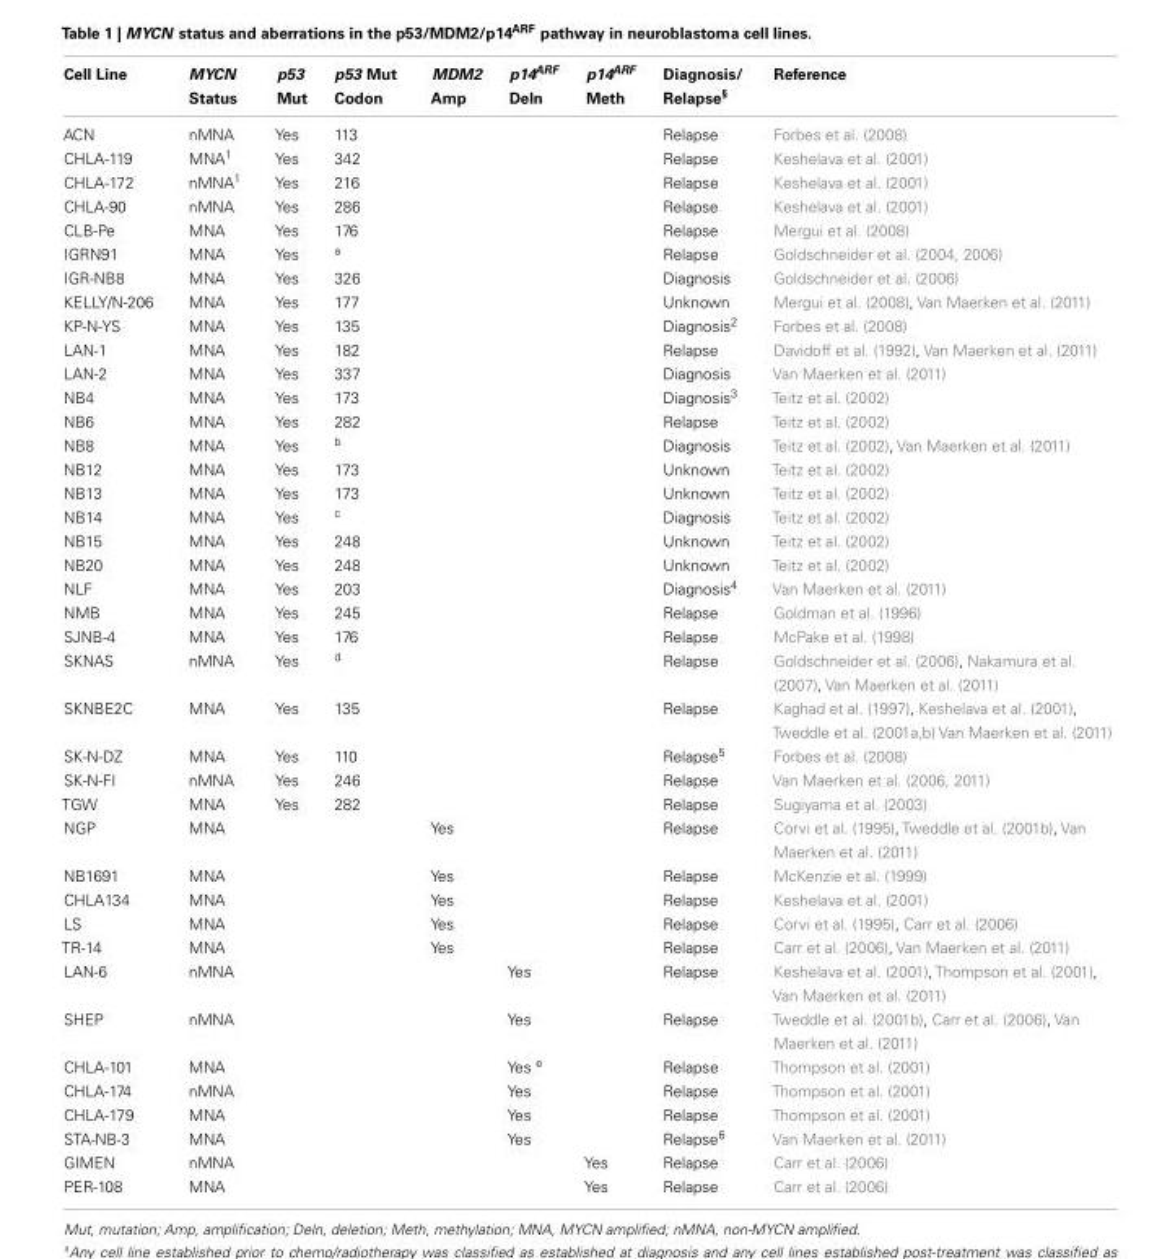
<table><thead><tr><td>Cell Line</td><td>MYCN Status</td><td>p53 Mut</td><td>p53 Mut Codon</td><td>MDM2 Amp</td><td>p14<sup>ARF</sup> Deln</td><td>p14<sup>ARF</sup> Meth</td><td>Diagnosis/ Relapse<sup>§</sup></td><td>Reference</td></tr></thead><tbody><tr><td>ACN</td><td>nMNA</td><td>Yes</td><td>113</td><td></td><td></td><td></td><td>Relapse</td><td>Forbes et al. (2008)</td></tr><tr><td>CHLA-119</td><td>MNA<sup>1</sup></td><td>Yes</td><td>342</td><td></td><td></td><td></td><td>Relapse</td><td>Keshelava et al. (2001)</td></tr><tr><td>CHLA-172</td><td>nMNA<sup>1</sup></td><td>Yes</td><td>216</td><td></td><td></td><td></td><td>Relapse</td><td>Keshelava et al. (2001)</td></tr><tr><td>CHLA-90</td><td>nMNA</td><td>Yes</td><td>286</td><td></td><td></td><td></td><td>Relapse</td><td>Keshelava et al. (2001)</td></tr><tr><td>CLB-Pe</td><td>MNA</td><td>Yes</td><td>176</td><td></td><td></td><td></td><td>Relapse</td><td>Mergui et al. (2008)</td></tr><tr><td>IGRN91</td><td>MNA</td><td>Yes</td><td><sup>a</sup></td><td></td><td></td><td></td><td>Relapse</td><td>Goldschneider et al. (2004, 2006)</td></tr><tr><td>IGR-NB8</td><td>MNA</td><td>Yes</td><td>326</td><td></td><td></td><td></td><td>Diagnosis</td><td>Goldschneider et al. (2006)</td></tr><tr><td>KELLY/N-206</td><td>MNA</td><td>Yes</td><td>177</td><td></td><td></td><td></td><td>Unknown</td><td>Mergui et al. (2008), Van Maerken et al. (2011)</td></tr><tr><td>KP-N-YS</td><td>MNA</td><td>Yes</td><td>135</td><td></td><td></td><td></td><td>Diagnosis<sup>2</sup></td><td>Forbes et al. (2008)</td></tr><tr><td>LAN-1</td><td>MNA</td><td>Yes</td><td>182</td><td></td><td></td><td></td><td>Relapse</td><td>Davidoff et al. (1992), Van Maerken et al. (2011)</td></tr><tr><td>LAN-2</td><td>MNA</td><td>Yes</td><td>337</td><td></td><td></td><td></td><td>Diagnosis</td><td>Van Maerken et al. (2011)</td></tr><tr><td>NB4</td><td>MNA</td><td>Yes</td><td>173</td><td></td><td></td><td></td><td>Diagnosis<sup>3</sup></td><td>Teitz et al. (2002)</td></tr><tr><td>NB6</td><td>MNA</td><td>Yes</td><td>282</td><td></td><td></td><td></td><td>Relapse</td><td>Teitz et al. (2002)</td></tr><tr><td>NB8</td><td>MNA</td><td>Yes</td><td><sup>b</sup></td><td></td><td></td><td></td><td>Diagnosis</td><td>Teitz et al. (2002), Van Maerken et al. (2011)</td></tr><tr><td>NB12</td><td>MNA</td><td>Yes</td><td>173</td><td></td><td></td><td></td><td>Unknown</td><td>Teitz et al. (2002)</td></tr><tr><td>NB13</td><td>MNA</td><td>Yes</td><td>173</td><td></td><td></td><td></td><td>Unknown</td><td>Teitz et al. (2002)</td></tr><tr><td>NB14</td><td>MNA</td><td>Yes</td><td><sup>c</sup></td><td></td><td></td><td></td><td>Diagnosis</td><td>Teitz et al. (2002)</td></tr><tr><td>NB15</td><td>MNA</td><td>Yes</td><td>248</td><td></td><td></td><td></td><td>Unknown</td><td>Teitz et al. (2002)</td></tr><tr><td>NB20</td><td>MNA</td><td>Yes</td><td>248</td><td></td><td></td><td></td><td>Unknown</td><td>Teitz et al. (2002)</td></tr><tr><td>NLF</td><td>MNA</td><td>Yes</td><td>203</td><td></td><td></td><td></td><td>Diagnosis<sup>4</sup></td><td>Van Maerken et al. (2011)</td></tr><tr><td>NMB</td><td>MNA</td><td>Yes</td><td>245</td><td></td><td></td><td></td><td>Relapse</td><td>Goldman et al. (1996)</td></tr><tr><td>SJNB-4</td><td>MNA</td><td>Yes</td><td>176</td><td></td><td></td><td></td><td>Relapse</td><td>McPake et al. (1998)</td></tr><tr><td>SKNAS</td><td>nMNA</td><td>Yes</td><td><sup>d</sup></td><td></td><td></td><td></td><td>Relapse</td><td>Goldschneider et al. (2006), Nakamura et al. (2007), Van Maerken et al. (2011)</td></tr><tr><td>SKNBE2C</td><td>MNA</td><td>Yes</td><td>135</td><td></td><td></td><td></td><td>Relapse</td><td>Kaghad et al. (1997), Keshelava et al. (2001), Tweddle et al. (2001a,b) Van Maerken et al. (2011)</td></tr><tr><td>SK-N-DZ</td><td>MNA</td><td>Yes</td><td>110</td><td></td><td></td><td></td><td>Relapse<sup>5</sup></td><td>Forbes et al. (2008)</td></tr><tr><td>SK-N-FI</td><td>nMNA</td><td>Yes</td><td>246</td><td></td><td></td><td></td><td>Relapse</td><td>Van Maerken et al. (2006, 2011)</td></tr><tr><td>TGW</td><td>MNA</td><td>Yes</td><td>282</td><td></td><td></td><td></td><td>Relapse</td><td>Sugiyama et al. (2003)</td></tr><tr><td>NGP</td><td>MNA</td><td></td><td></td><td>Yes</td><td></td><td></td><td>Relapse</td><td>Corvi et al. (1995), Tweddle et al. (2001b), Van Maerken et al. (2011)</td></tr><tr><td>NB1691</td><td>MNA</td><td></td><td></td><td>Yes</td><td></td><td></td><td>Relapse</td><td>McKenzie et al. (1999)</td></tr><tr><td>CHLA134</td><td>MNA</td><td></td><td></td><td>Yes</td><td></td><td></td><td>Relapse</td><td>Keshelava et al. (2001)</td></tr><tr><td>LS</td><td>MNA</td><td></td><td></td><td>Yes</td><td></td><td></td><td>Relapse</td><td>Corvi et al. (1995), Carr et al. (2006)</td></tr><tr><td>TR-14</td><td>MNA</td><td></td><td></td><td>Yes</td><td></td><td></td><td>Relapse</td><td>Carr et al. (2006), Van Maerken et al. (2011)</td></tr><tr><td>LAN-6</td><td>nMNA</td><td></td><td></td><td></td><td>Yes</td><td></td><td>Relapse</td><td>Keshelava et al. (2001), Thompson et al. (2001), Van Maerken et al. (2011)</td></tr><tr><td>SHEP</td><td>nMNA</td><td></td><td></td><td></td><td>Yes</td><td></td><td>Relapse</td><td>Tweddle et al. (2001b), Carr et al. (2006), Van Maerken et al. (2011)</td></tr><tr><td>CHLA-101</td><td>MNA</td><td></td><td></td><td></td><td>Yes <sup>e</sup></td><td></td><td>Relapse</td><td>Thompson et al. (2001)</td></tr><tr><td>CHLA-174</td><td>nMNA</td><td></td><td></td><td></td><td>Yes</td><td></td><td>Relapse</td><td>Thompson et al. (2001)</td></tr><tr><td>CHLA-179</td><td>MNA</td><td></td><td></td><td></td><td>Yes</td><td></td><td>Relapse</td><td>Thompson et al. (2001)</td></tr><tr><td>STA-NB-3</td><td>MNA</td><td></td><td></td><td></td><td>Yes</td><td></td><td>Relapse<sup>6</sup></td><td>Van Maerken et al. (2011)</td></tr><tr><td>GIMEN</td><td>nMNA</td><td></td><td></td><td></td><td></td><td>Yes</td><td>Relapse</td><td>Carr et al. (2006)</td></tr><tr><td>PER-108</td><td>MNA</td><td></td><td></td><td></td><td></td><td>Yes</td><td>Relapse</td><td>Carr et al. (2006)</td></tr></tbody></table>